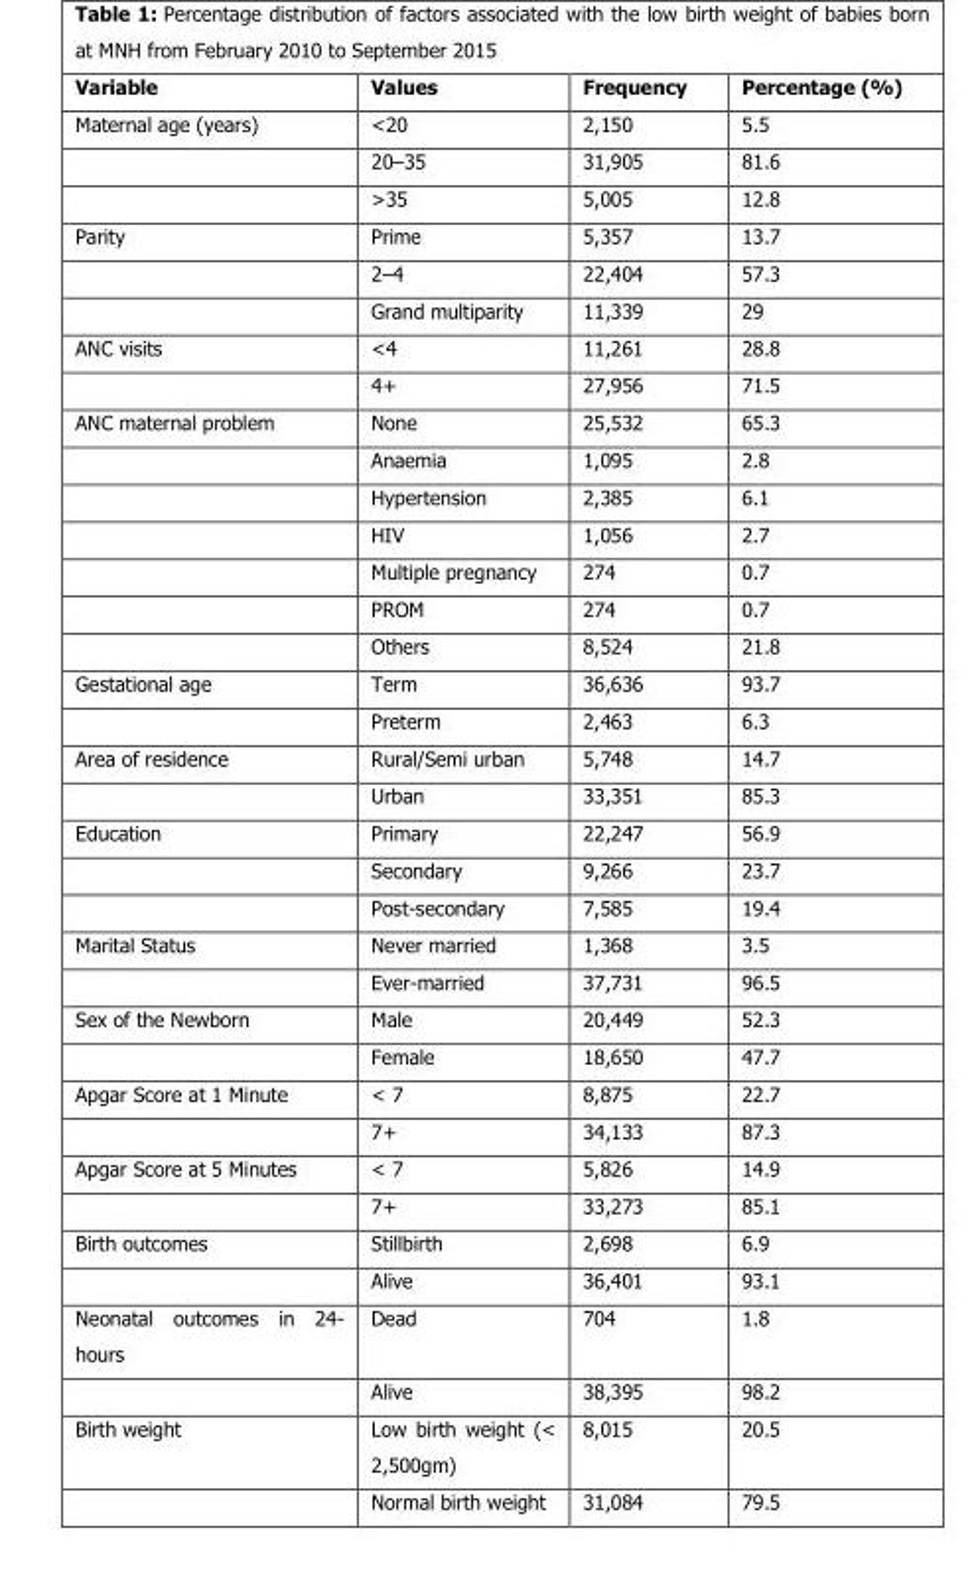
<table><thead><tr><td>Variable</td><td>Values</td><td>Frequency</td><td>Percentage (%)</td></tr></thead><tbody><tr><td rowspan="3">Maternal age (years)</td><td>&lt;20</td><td>2,150</td><td>5.5</td></tr><tr><td>20–35</td><td>31,905</td><td>81.6</td></tr><tr><td>&gt;35</td><td>5,005</td><td>12.8</td></tr><tr><td rowspan="3">Parity</td><td>Prime</td><td>5,357</td><td>13.7</td></tr><tr><td>2–4</td><td>22,404</td><td>57.3</td></tr><tr><td>Grand multiparity</td><td>11,339</td><td>29</td></tr><tr><td rowspan="2">ANC visits</td><td>&lt;4</td><td>11,261</td><td>28.8</td></tr><tr><td>4<sup>+</sup></td><td>27,956</td><td>71.5</td></tr><tr><td rowspan="7">ANC maternal problem</td><td>None</td><td>25,532</td><td>65.3</td></tr><tr><td>Anaemia</td><td>1,095</td><td>2.8</td></tr><tr><td>Hypertension</td><td>2,385</td><td>6.1</td></tr><tr><td>HIV</td><td>1,056</td><td>2.7</td></tr><tr><td>Multiple pregnancy</td><td>274</td><td>0.7</td></tr><tr><td>PROM</td><td>274</td><td>0.7</td></tr><tr><td>Others</td><td>8,524</td><td>21.8</td></tr><tr><td rowspan="2">Gestational age</td><td>Term</td><td>36,636</td><td>93.7</td></tr><tr><td>Preterm</td><td>2,463</td><td>6.3</td></tr><tr><td rowspan="2">Area of residence</td><td>Rural/Semi urban</td><td>5,748</td><td>14.7</td></tr><tr><td>Urban</td><td>33,351</td><td>85.3</td></tr><tr><td rowspan="3">Education</td><td>Primary</td><td>22,247</td><td>56.9</td></tr><tr><td>Secondary</td><td>9,266</td><td>23.7</td></tr><tr><td>Post-secondary</td><td>7,585</td><td>19.4</td></tr><tr><td rowspan="2">Marital Status</td><td>Never married</td><td>1,368</td><td>3.5</td></tr><tr><td>Ever-married</td><td>37,731</td><td>96.5</td></tr><tr><td rowspan="2">Sex of the Newborn</td><td>Male</td><td>20,449</td><td>52.3</td></tr><tr><td>Female</td><td>18,650</td><td>47.7</td></tr><tr><td rowspan="2">Apgar Score at 1 Minute</td><td>&lt; 7</td><td>8,875</td><td>22.7</td></tr><tr><td>7<sup>+</sup></td><td>34,133</td><td>87.3</td></tr><tr><td rowspan="2">Apgar Score at 5 Minutes</td><td>&lt; 7</td><td>5,826</td><td>14.9</td></tr><tr><td>7<sup>+</sup></td><td>33,273</td><td>85.1</td></tr><tr><td rowspan="2">Birth outcomes</td><td>Stillbirth</td><td>2,698</td><td>6.9</td></tr><tr><td>Alive</td><td>36,401</td><td>93.1</td></tr><tr><td rowspan="2">Neonatal outcomes in 24- hours</td><td>Dead</td><td>704</td><td>1.8</td></tr><tr><td>Alive</td><td>38,395</td><td>98.2</td></tr><tr><td rowspan="2">Birth weight</td><td>Low birth weight (&lt; 2,500gm)</td><td>8,015</td><td>20.5</td></tr><tr><td>Normal birth weight</td><td>31,084</td><td>79.5</td></tr></tbody></table>